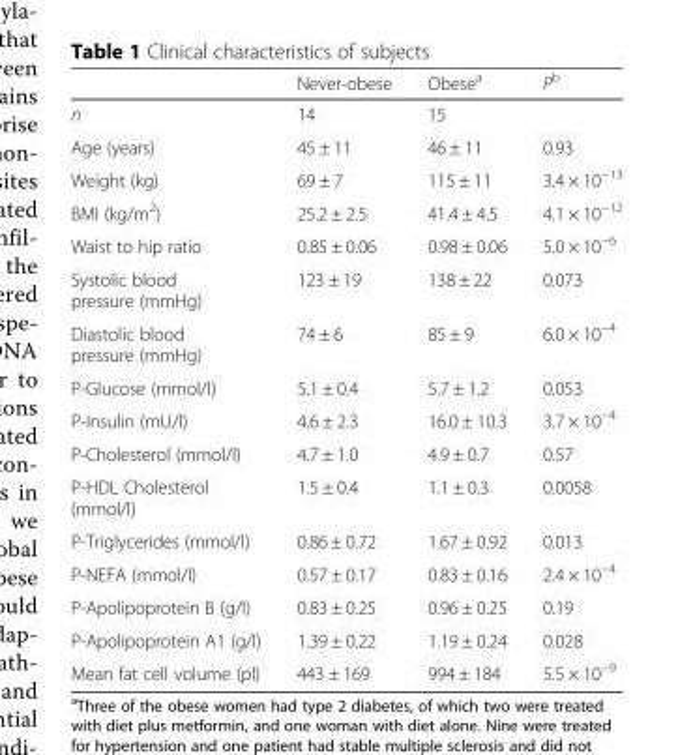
<table><thead><tr><td></td><td>Never-obese</td><td>Obese<sup>a</sup></td><td>P<sup>b</sup></td></tr></thead><tbody><tr><td>n</td><td>14</td><td>15</td><td></td></tr><tr><td>Age (years)</td><td>45 ± 11</td><td>46 ± 11</td><td>0.93</td></tr><tr><td>Weight (kg)</td><td>69 ± 7</td><td>115 ± 11</td><td>3.4 × 10<sup>−13</sup></td></tr><tr><td>BMI (kg/m<sup>2</sup>)</td><td>25.2 ± 2.5</td><td>41.4 ± 4.5</td><td>4.1 × 10<sup>−12</sup></td></tr><tr><td>Waist to hip ratio</td><td>0.85 ± 0.06</td><td>0.98 ± 0.06</td><td>5.0 × 10<sup>−6</sup></td></tr><tr><td>Systolic blood pressure (mmHg)</td><td>123 ± 19</td><td>138 ± 22</td><td>0.073</td></tr><tr><td>Diastolic blood pressure (mmHg)</td><td>74 ± 6</td><td>85 ± 9</td><td>6.0 × 10<sup>−4</sup></td></tr><tr><td>P-Glucose (mmol/l)</td><td>5.1 ± 0.4</td><td>5.7 ± 1.2</td><td>0.053</td></tr><tr><td>P-Insulin (mU/l)</td><td>4.6 ± 2.3</td><td>16.0 ± 10.3</td><td>3.7 × 10<sup>−4</sup></td></tr><tr><td>P-Cholesterol (mmol/l)</td><td>4.7 ± 1.0</td><td>4.9 ± 0.7</td><td>0.57</td></tr><tr><td>P-HDL Cholesterol (mmol/l)</td><td>1.5 ± 0.4</td><td>1.1 ± 0.3</td><td>0.0058</td></tr><tr><td>P-Triglycerides (mmol/l)</td><td>0.86 ± 0.72</td><td>1.67 ± 0.92</td><td>0.013</td></tr><tr><td>P-NEFA (mmol/l)</td><td>0.57 ± 0.17</td><td>0.83 ± 0.16</td><td>2.4 × 10<sup>−4</sup></td></tr><tr><td>P-Apolipoprotein B (g/l)</td><td>0.83 ± 0.25</td><td>0.96 ± 0.25</td><td>0.19</td></tr><tr><td>P-Apolipoprotein A1 (g/l)</td><td>1.39 ± 0.22</td><td>1.19 ± 0.24</td><td>0.028</td></tr><tr><td>Mean fat cell volume (pl)</td><td>443 ± 169</td><td>994 ± 184</td><td>5.5 × 10<sup>−9</sup></td></tr></tbody></table>